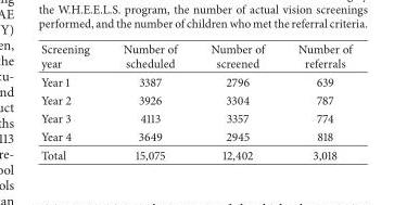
<table><thead><tr><td>Screening year</td><td>Number of scheduled</td><td>Number of screened</td><td>Number of referrals</td></tr></thead><tbody><tr><td>Year 1</td><td>3387</td><td>2796</td><td>639</td></tr><tr><td>Year 2</td><td>3926</td><td>3304</td><td>787</td></tr><tr><td>Year 3</td><td>4113</td><td>3357</td><td>774</td></tr><tr><td>Year 4</td><td>3649</td><td>2945</td><td>818</td></tr><tr><td>Total</td><td>15,075</td><td>12,402</td><td>3,018</td></tr></tbody></table>